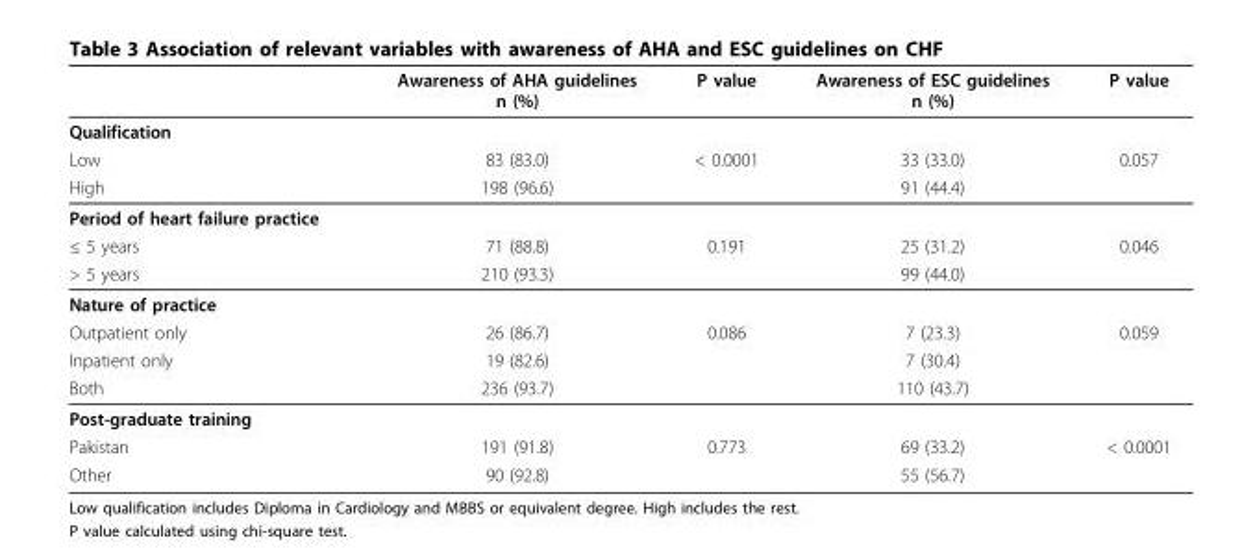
<table><thead><tr><td></td><td>Awareness of AHA guidelines n (%)</td><td>P value</td><td>Awareness of ESC guidelines n (%)</td><td>P value</td></tr></thead><tbody><tr><td colspan="5">Qualification</td></tr><tr><td>Low</td><td>83 (83.0)</td><td>&lt; 0.0001</td><td>33 (33.0)</td><td>0.057</td></tr><tr><td>High</td><td>198 (96.6)</td><td></td><td>91 (44.4)</td><td></td></tr><tr><td colspan="5">Period of heart failure practice</td></tr><tr><td>≤ 5 years</td><td>71 (88.8)</td><td>0.191</td><td>25 (31.2)</td><td>0.046</td></tr><tr><td>&gt; 5 years</td><td>210 (93.3)</td><td></td><td>99 (44.0)</td><td></td></tr><tr><td colspan="5">Nature of practice</td></tr><tr><td>Outpatient only</td><td>26 (86.7)</td><td>0.086</td><td>7 (23.3)</td><td>0.059</td></tr><tr><td>Inpatient only</td><td>19 (82.6)</td><td></td><td>7 (30.4)</td><td></td></tr><tr><td>Both</td><td>236 (93.7)</td><td></td><td>110 (43.7)</td><td></td></tr><tr><td colspan="5">Post-graduate training</td></tr><tr><td>Pakistan</td><td>191 (91.8)</td><td>0.773</td><td>69 (33.2)</td><td>&lt; 0.0001</td></tr><tr><td>Other</td><td>90 (92.8)</td><td></td><td>55 (56.7)</td><td></td></tr></tbody></table>